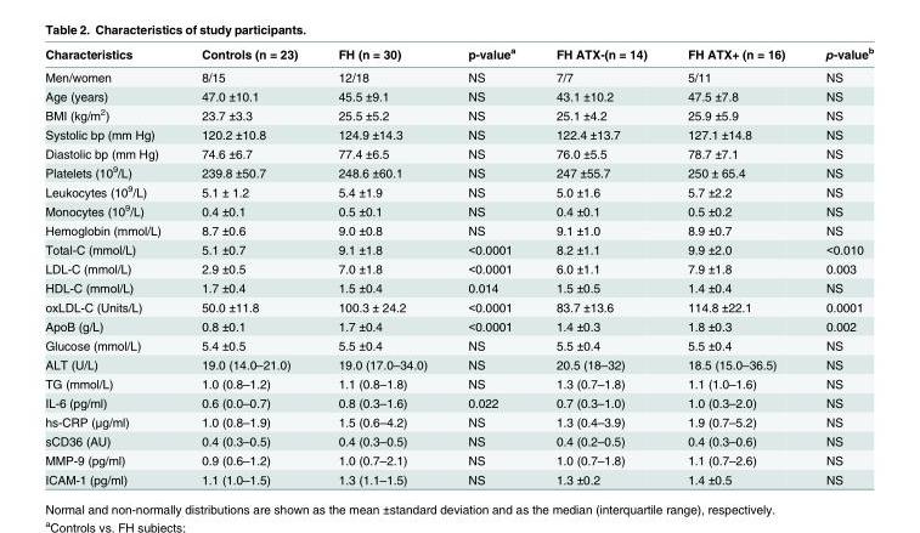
<table><thead><tr><td>Characteristics</td><td>Controls (n = 23)</td><td>FH (n = 30)</td><td>p-value<sup>a</sup></td><td>FH ATX-(n = 14)</td><td>FH ATX+ (n = 16)</td><td>p-value<sup>b</sup></td></tr></thead><tbody><tr><td>Men/women</td><td>8/15</td><td>12/18</td><td>NS</td><td>7/7</td><td>5/11</td><td>NS</td></tr><tr><td>Age (years)</td><td>47.0 ±10.1</td><td>45.5 ±9.1</td><td>NS</td><td>43.1 ±10.2</td><td>47.5 ±7.8</td><td>NS</td></tr><tr><td>BMI (kg/m<sup>2</sup>)</td><td>23.7 ±3.3</td><td>25.5 ±5.2</td><td>NS</td><td>25.1 ±4.2</td><td>25.9 ±5.9</td><td>NS</td></tr><tr><td>Systolic bp (mm Hg)</td><td>120.2 ±10.8</td><td>124.9 ±14.3</td><td>NS</td><td>122.4 ±13.7</td><td>127.1 ±14.8</td><td>NS</td></tr><tr><td>Diastolic bp (mm Hg)</td><td>74.6 ±6.7</td><td>77.4 ±6.5</td><td>NS</td><td>76.0 ±5.5</td><td>78.7 ±7.1</td><td>NS</td></tr><tr><td>Platelets (10<sup>9</sup>/L)</td><td>239.8 ±50.7</td><td>248.6 ±60.1</td><td>NS</td><td>247 ±55.7</td><td>250 ± 65.4</td><td>NS</td></tr><tr><td>Leukocytes (10<sup>9</sup>/L)</td><td>5.1 ± 1.2</td><td>5.4 ±1.9</td><td>NS</td><td>5.0 ±1.6</td><td>5.7 ±2.2</td><td>NS</td></tr><tr><td>Monocytes (10<sup>9</sup>/L)</td><td>0.4 ±0.1</td><td>0.5 ±0.1</td><td>NS</td><td>0.4 ±0.1</td><td>0.5 ±0.2</td><td>NS</td></tr><tr><td>Hemoglobin (mmol/L)</td><td>8.7 ±0.6</td><td>9.0 ±0.8</td><td>NS</td><td>9.1 ±1.0</td><td>8.9 ±0.7</td><td>NS</td></tr><tr><td>Total-C (mmol/L)</td><td>5.1 ±0.7</td><td>9.1 ±1.8</td><td>&lt;0.0001</td><td>8.2 ±1.1</td><td>9.9 ±2.0</td><td>&lt;0.010</td></tr><tr><td>LDL-C (mmol/L)</td><td>2.9 ±0.5</td><td>7.0 ±1.8</td><td>&lt;0.0001</td><td>6.0 ±1.1</td><td>7.9 ±1.8</td><td>0.003</td></tr><tr><td>HDL-C (mmol/L)</td><td>1.7 ±0.4</td><td>1.5 ±0.4</td><td>0.014</td><td>1.5 ±0.5</td><td>1.4 ±0.4</td><td>NS</td></tr><tr><td>oxLDL-C (Units/L)</td><td>50.0 ±11.8</td><td>100.3 ± 24.2</td><td>&lt;0.0001</td><td>83.7 ±13.6</td><td>114.8 ±22.1</td><td>0.0001</td></tr><tr><td>ApoB (g/L)</td><td>0.8 ±0.1</td><td>1.7 ±0.4</td><td>&lt;0.0001</td><td>1.4 ±0.3</td><td>1.8 ±0.3</td><td>0.002</td></tr><tr><td>Glucose (mmol/L)</td><td>5.4 ±0.5</td><td>5.5 ±0.4</td><td>NS</td><td>5.5 ±0.4</td><td>5.5 ±0.4</td><td>NS</td></tr><tr><td>ALT (U/L)</td><td>19.0 (14.0–21.0)</td><td>19.0 (17.0–34.0)</td><td>NS</td><td>20.5 (18–32)</td><td>18.5 (15.0–36.5)</td><td>NS</td></tr><tr><td>TG (mmol/L)</td><td>1.0 (0.8–1.2)</td><td>1.1 (0.8–1.8)</td><td>NS</td><td>1.3 (0.7–1.8)</td><td>1.1 (1.0–1.6)</td><td>NS</td></tr><tr><td>IL-6 (pg/ml)</td><td>0.6 (0.0–0.7)</td><td>0.8 (0.3–1.6)</td><td>0.022</td><td>0.7 (0.3–1.0)</td><td>1.0 (0.3–2.0)</td><td>NS</td></tr><tr><td>hs-CRP (μg/ml)</td><td>1.0 (0.8–1.9)</td><td>1.5 (0.6–4.2)</td><td>NS</td><td>1.3 (0.4–3.9)</td><td>1.9 (0.7–5.2)</td><td>NS</td></tr><tr><td>sCD36 (AU)</td><td>0.4 (0.3–0.5)</td><td>0.4 (0.3–0.5)</td><td>NS</td><td>0.4 (0.2–0.5)</td><td>0.4 (0.3–0.6)</td><td>NS</td></tr><tr><td>MMP-9 (pg/ml)</td><td>0.9 (0.6–1.2)</td><td>1.0 (0.7–2.1)</td><td>NS</td><td>1.0 (0.7–1.8)</td><td>1.1 (0.7–2.6)</td><td>NS</td></tr><tr><td>ICAM-1 (pg/ml)</td><td>1.1 (1.0–1.5)</td><td>1.3 (1.1–1.5)</td><td>NS</td><td>1.3 ±0.2</td><td>1.4 ±0.5</td><td>NS</td></tr></tbody></table>